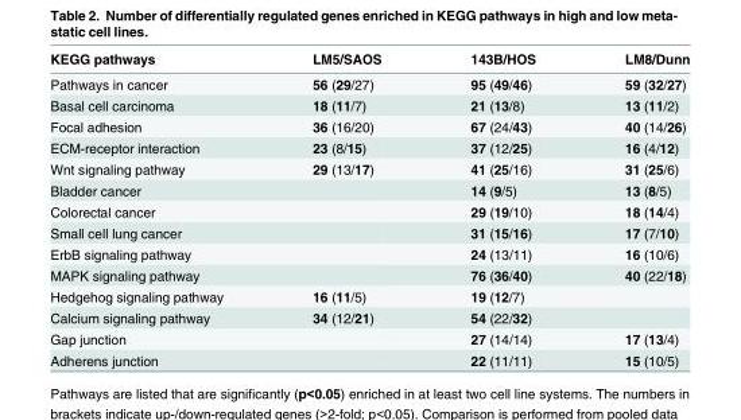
<table><thead><tr><td>KEGG pathways</td><td>LM5/SAOS</td><td>143B/HOS</td><td>LM8/Dunn</td></tr></thead><tbody><tr><td>Pathways in cancer</td><td>56 (29/27)</td><td>95 (49/46)</td><td>59 (32/27)</td></tr><tr><td>Basal cell carcinoma</td><td>18 (11/7)</td><td>21 (13/8)</td><td>13 (11/2)</td></tr><tr><td>Focal adhesion</td><td>36 (16/20)</td><td>67 (24/43)</td><td>40 (14/26)</td></tr><tr><td>ECM-receptor interaction</td><td>23 (8/15)</td><td>37 (12/25)</td><td>16 (4/12)</td></tr><tr><td>Wnt signaling pathway</td><td>29 (13/17)</td><td>41 (25/16)</td><td>31 (25/6)</td></tr><tr><td>Bladder cancer</td><td></td><td>14 (9/5)</td><td>13 (8/5)</td></tr><tr><td>Colorectal cancer</td><td></td><td>29 (19/10)</td><td>18 (14/4)</td></tr><tr><td>Small cell lung cancer</td><td></td><td>31 (15/16)</td><td>17 (7/10)</td></tr><tr><td>ErbB signaling pathway</td><td></td><td>24 (13/11)</td><td>16 (10/6)</td></tr><tr><td>MAPK signaling pathway</td><td></td><td>76 (36/40)</td><td>40 (22/18)</td></tr><tr><td>Hedgehog signaling pathway</td><td>16 (11/5)</td><td>19 (12/7)</td><td></td></tr><tr><td>Calcium signaling pathway</td><td>34 (12/21)</td><td>54 (22/32)</td><td></td></tr><tr><td>Gap junction</td><td></td><td>27 (14/14)</td><td>17 (13/4)</td></tr><tr><td>Adherens junction</td><td></td><td>22 (11/11)</td><td>15 (10/5)</td></tr></tbody></table>